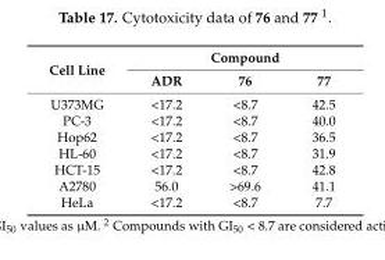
<table><thead><tr><td rowspan="2">Cell Line</td><td colspan="3">Compound</td></tr><tr><td>ADR</td><td>76</td><td>77</td></tr></thead><tbody><tr><td>U373MG</td><td>&lt;17.2</td><td>&lt;8.7</td><td>42.5</td></tr><tr><td>PC-3</td><td>&lt;17.2</td><td>&lt;8.7</td><td>40.0</td></tr><tr><td>Hop62</td><td>&lt;17.2</td><td>&lt;8.7</td><td>36.5</td></tr><tr><td>HL-60</td><td>&lt;17.2</td><td>&lt;8.7</td><td>31.9</td></tr><tr><td>HCT-15</td><td>&lt;17.2</td><td>&lt;8.7</td><td>42.8</td></tr><tr><td>A2780</td><td>56.0</td><td>&gt;69.6</td><td>41.1</td></tr><tr><td>HeLa</td><td>&lt;17.2</td><td>&lt;8.7</td><td>7.7</td></tr></tbody></table>